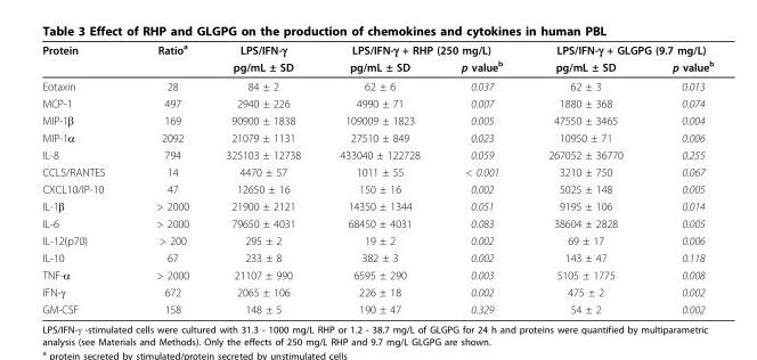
<table><thead><tr><td rowspan="2">Protein</td><td rowspan="2">Ratio<sup>a</sup></td><td rowspan="2">LPS/IFN-γ pg/mL ± SD</td><td colspan="2">LPS/IFN-γ + RHP (250 mg/L)</td><td colspan="2">LPS/IFN-γ + GLGPG (9.7 mg/L)</td></tr><tr><td>pg/mL ± SD</td><td>p value<sup>b</sup></td><td>pg/mL ± SD</td><td>p value<sup>b</sup></td></tr></thead><tbody><tr><td>Eotaxin</td><td>28</td><td>84 ± 2</td><td>62 ± 6</td><td>0.037</td><td>62 ± 3</td><td>0.013</td></tr><tr><td>MCP-1</td><td>497</td><td>2940 ± 226</td><td>4990 ± 71</td><td>0.007</td><td>1880 ± 368</td><td>0.074</td></tr><tr><td>MIP-1β</td><td>169</td><td>90900 ± 1838</td><td>109009 ± 1823</td><td>0.005</td><td>47550 ± 3465</td><td>0.004</td></tr><tr><td>MIP-1α</td><td>2092</td><td>21079 ± 1131</td><td>27510 ± 849</td><td>0.023</td><td>10950 ± 71</td><td>0.006</td></tr><tr><td>IL-8</td><td>794</td><td>325103 ± 12738</td><td>433040 ± 122728</td><td>0.059</td><td>267052 ± 36770</td><td>0.255</td></tr><tr><td>CCL5/RANTES</td><td>14</td><td>4470 ± 57</td><td>1011 ± 55</td><td>&lt; 0.001</td><td>3210 ± 750</td><td>0.067</td></tr><tr><td>CXCL10/IP-10</td><td>47</td><td>12650 ± 16</td><td>150 ± 16</td><td>0.002</td><td>5025 ± 148</td><td>0.005</td></tr><tr><td>IL-1β</td><td>&gt; 2000</td><td>21900 ± 2121</td><td>14350 ± 1344</td><td>0.051</td><td>9195 ± 106</td><td>0.014</td></tr><tr><td>IL-6</td><td>&gt; 2000</td><td>79650 ± 4031</td><td>68450 ± 4031</td><td>0.083</td><td>38604 ± 2828</td><td>0.005</td></tr><tr><td>IL-12(p70)</td><td>&gt; 200</td><td>295 ± 2</td><td>19 ± 2</td><td>0.002</td><td>69 ± 17</td><td>0.006</td></tr><tr><td>IL-10</td><td>67</td><td>233 ± 8</td><td>382 ± 3</td><td>0.002</td><td>143 ± 47</td><td>0.118</td></tr><tr><td>TNF-α</td><td>&gt; 2000</td><td>21107 ± 990</td><td>6595 ± 290</td><td>0.003</td><td>5105 ± 1775</td><td>0.008</td></tr><tr><td>IFN-γ</td><td>672</td><td>2065 ± 106</td><td>226 ± 18</td><td>0.002</td><td>475 ± 2</td><td>0.002</td></tr><tr><td>GM-CSF</td><td>158</td><td>148 ± 5</td><td>190 ± 47</td><td>0.329</td><td>54 ± 2</td><td>0.002</td></tr></tbody></table>